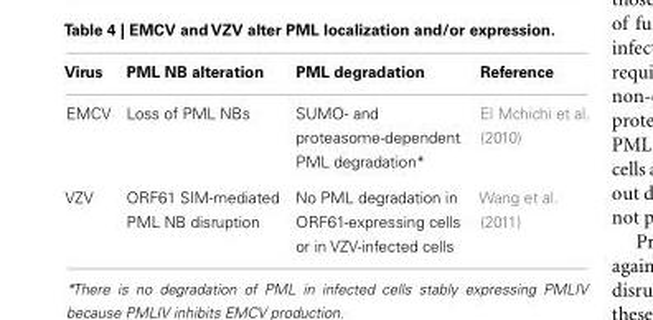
<table><thead><tr><td>Virus</td><td>PML NB alteration</td><td>PML degradation</td><td>Reference</td></tr></thead><tbody><tr><td>EMCV</td><td>Loss of PML NBs</td><td>SUMO- and proteasome-dependent PML degradation*</td><td>El Mchichi et al. (2010)</td></tr><tr><td>VZV</td><td>ORF61 SIM-mediated PML NB disruption</td><td>No PML degradation in ORF61-expressing cells or in VZV-infected cells</td><td>Wang et al. (2011)</td></tr></tbody></table>